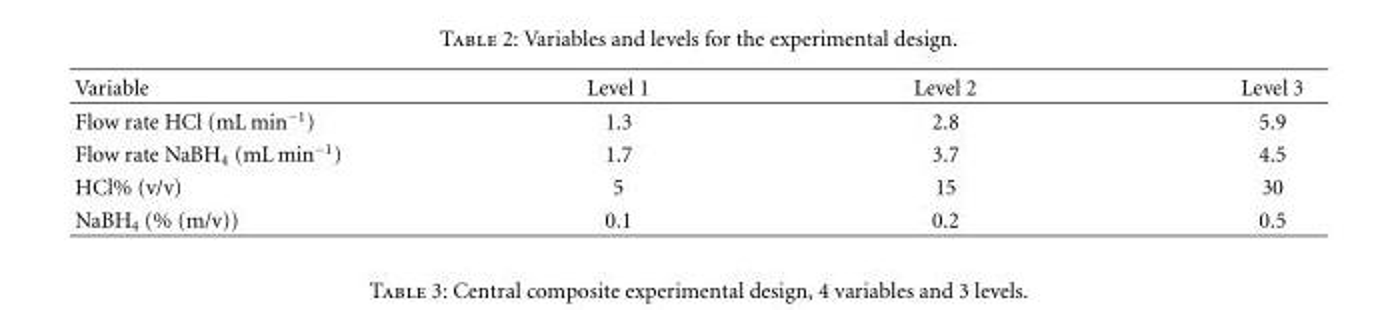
<table><thead><tr><td>Variable</td><td>Level 1</td><td>Level 2</td><td>Level 3</td></tr></thead><tbody><tr><td>Flow rate HCl (mL min<sup>−1</sup>)</td><td>1.3</td><td>2.8</td><td>5.9</td></tr><tr><td>Flow rate NaBH<sub>4</sub> (mL min<sup>−1</sup>)</td><td>1.7</td><td>3.7</td><td>4.5</td></tr><tr><td>HCl% (v/v)</td><td>5</td><td>15</td><td>30</td></tr><tr><td>NaBH<sub>4</sub> (% (m/v))</td><td>0.1</td><td>0.2</td><td>0.5</td></tr></tbody></table>